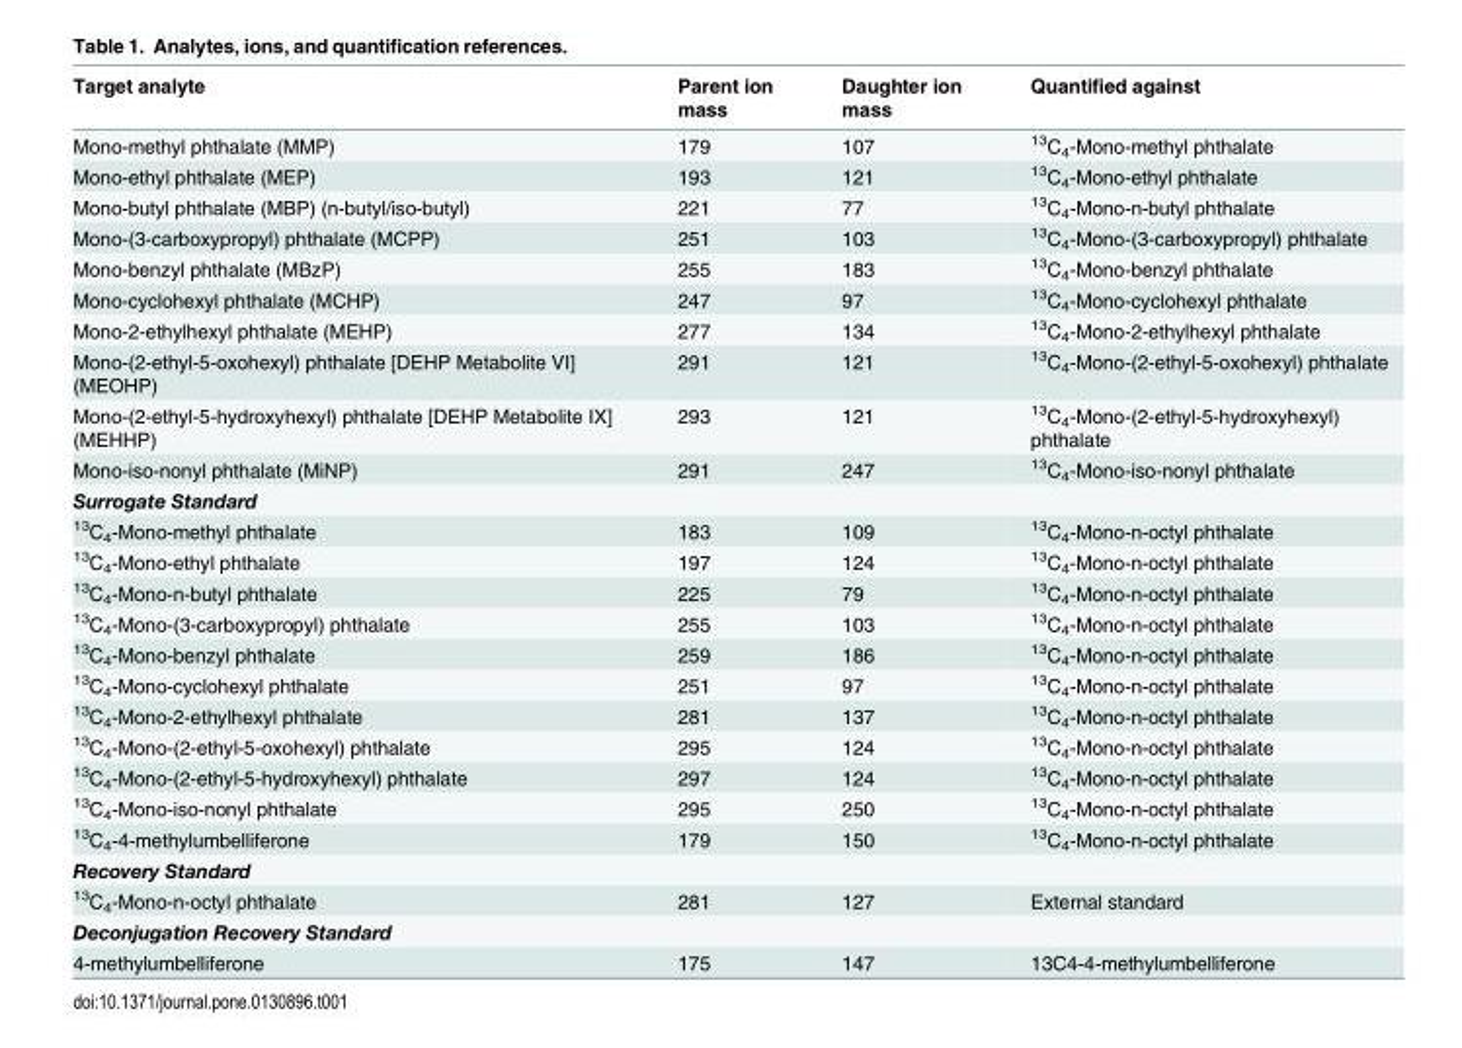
<table><thead><tr><td>Target analyte</td><td>Parent ion mass</td><td>Daughter ion mass</td><td>Quantified against</td></tr></thead><tbody><tr><td>Mono-methyl phthalate (MMP)</td><td>179</td><td>107</td><td><sup>13</sup>C<sub>4</sub>-Mono-methyl phthalate</td></tr><tr><td>Mono-ethyl phthalate (MEP)</td><td>193</td><td>121</td><td><sup>13</sup>C<sub>4</sub>-Mono-ethyl phthalate</td></tr><tr><td>Mono-butyl phthalate (MBP) (n-butyl/iso-butyl)</td><td>221</td><td>77</td><td><sup>13</sup>C<sub>4</sub>-Mono-n-butyl phthalate</td></tr><tr><td>Mono-(3-carboxypropyl) phthalate (MCPP)</td><td>251</td><td>103</td><td><sup>13</sup>C<sub>4</sub>-Mono-(3-carboxypropyl) phthalate</td></tr><tr><td>Mono-benzyl phthalate (MBzP)</td><td>255</td><td>183</td><td><sup>13</sup>C<sub>4</sub>-Mono-benzyl phthalate</td></tr><tr><td>Mono-cyclohexyl phthalate (MCHP)</td><td>247</td><td>97</td><td><sup>13</sup>C<sub>4</sub>-Mono-cyclohexyl phthalate</td></tr><tr><td>Mono-2-ethylhexyl phthalate (MEHP)</td><td>277</td><td>134</td><td><sup>13</sup>C<sub>4</sub>-Mono-2-ethylhexyl phthalate</td></tr><tr><td>Mono-(2-ethyl-5-oxohexyl) phthalate [DEHP Metabolite VI] (MEOHP)</td><td>291</td><td>121</td><td><sup>13</sup>C<sub>4</sub>-Mono-(2-ethyl-5-oxohexyl) phthalate</td></tr><tr><td>Mono-(2-ethyl-5-hydroxyhexyl) phthalate [DEHP Metabolite IX] (MEHHP)</td><td>293</td><td>121</td><td><sup>13</sup>C<sub>4</sub>-Mono-(2-ethyl-5-hydroxyhexyl) phthalate</td></tr><tr><td>Mono-iso-nonyl phthalate (MiNP)</td><td>291</td><td>247</td><td><sup>13</sup>C<sub>4</sub>-Mono-iso-nonyl phthalate</td></tr><tr><td colspan="4">Surrogate Standard</td></tr><tr><td><sup>13</sup>C<sub>4</sub>-Mono-methyl phthalate</td><td>183</td><td>109</td><td><sup>13</sup>C<sub>4</sub>-Mono-n-octyl phthalate</td></tr><tr><td><sup>13</sup>C<sub>4</sub>-Mono-ethyl phthalate</td><td>197</td><td>124</td><td><sup>13</sup>C<sub>4</sub>-Mono-n-octyl phthalate</td></tr><tr><td><sup>13</sup>C<sub>4</sub>-Mono-n-butyl phthalate</td><td>225</td><td>79</td><td><sup>13</sup>C<sub>4</sub>-Mono-n-octyl phthalate</td></tr><tr><td><sup>13</sup>C<sub>4</sub>-Mono-(3-carboxypropyl) phthalate</td><td>255</td><td>103</td><td><sup>13</sup>C<sub>4</sub>-Mono-n-octyl phthalate</td></tr><tr><td><sup>13</sup>C<sub>4</sub>-Mono-benzyl phthalate</td><td>259</td><td>186</td><td><sup>13</sup>C<sub>4</sub>-Mono-n-octyl phthalate</td></tr><tr><td><sup>13</sup>C<sub>4</sub>-Mono-cyclohexyl phthalate</td><td>251</td><td>97</td><td><sup>13</sup>C<sub>4</sub>-Mono-n-octyl phthalate</td></tr><tr><td><sup>13</sup>C<sub>4</sub>-Mono-2-ethylhexyl phthalate</td><td>281</td><td>137</td><td><sup>13</sup>C<sub>4</sub>-Mono-n-octyl phthalate</td></tr><tr><td><sup>13</sup>C<sub>4</sub>-Mono-(2-ethyl-5-oxohexyl) phthalate</td><td>295</td><td>124</td><td><sup>13</sup>C<sub>4</sub>-Mono-n-octyl phthalate</td></tr><tr><td><sup>13</sup>C<sub>4</sub>-Mono-(2-ethyl-5-hydroxyhexyl) phthalate</td><td>297</td><td>124</td><td><sup>13</sup>C<sub>4</sub>-Mono-n-octyl phthalate</td></tr><tr><td><sup>13</sup>C<sub>4</sub>-Mono-iso-nonyl phthalate</td><td>295</td><td>250</td><td><sup>13</sup>C<sub>4</sub>-Mono-n-octyl phthalate</td></tr><tr><td><sup>13</sup>C<sub>4</sub>-4-methylumbelliferone</td><td>179</td><td>150</td><td><sup>13</sup>C<sub>4</sub>-Mono-n-octyl phthalate</td></tr><tr><td colspan="4">Recovery Standard</td></tr><tr><td><sup>13</sup>C<sub>4</sub>-Mono-n-octyl phthalate</td><td>281</td><td>127</td><td>External standard</td></tr><tr><td colspan="4">Deconjugation Recovery Standard</td></tr><tr><td>4-methylumbelliferone</td><td>175</td><td>147</td><td>13C4-4-methylumbelliferone</td></tr></tbody></table>